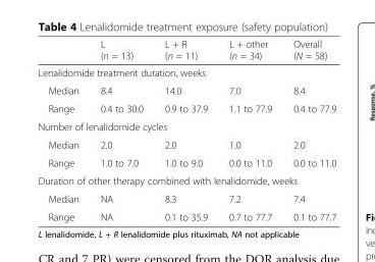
<table><thead><tr><td></td><td>L (n = 13)</td><td>L + R (n = 11)</td><td>L + other (n = 34)</td><td>Overall (N = 58)</td></tr></thead><tbody><tr><td colspan="5">Lenalidomide treatment duration, weeks</td></tr><tr><td>Median</td><td>8.4</td><td>14.0</td><td>7.0</td><td>8.4</td></tr><tr><td>Range</td><td>0.4 to 30.0</td><td>0.9 to 37.9</td><td>1.1 to 77.9</td><td>0.4 to 77.9</td></tr><tr><td colspan="5">Number of lenalidomide cycles</td></tr><tr><td>Median</td><td>2.0</td><td>2.0</td><td>1.0</td><td>2.0</td></tr><tr><td>Range</td><td>1.0 to 7.0</td><td>1.0 to 9.0</td><td>0.0 to 11.0</td><td>0.0 to 11.0</td></tr><tr><td colspan="5">Duration of other therapy combined with lenalidomide, weeks</td></tr><tr><td>Median</td><td>NA</td><td>8.3</td><td>7.2</td><td>7.4</td></tr><tr><td>Range</td><td>NA</td><td>0.1 to 35.9</td><td>0.7 to 77.7</td><td>0.1 to 77.7</td></tr></tbody></table>